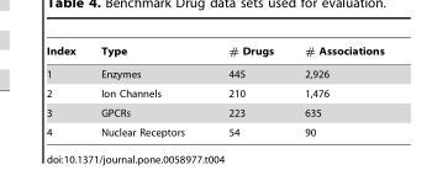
<table><thead><tr><td>Index</td><td>Type</td><td># Drugs</td><td># Associations</td></tr></thead><tbody><tr><td>1</td><td>Enzymes</td><td>445</td><td>2,926</td></tr><tr><td>2</td><td>Ion Channels</td><td>210</td><td>1,476</td></tr><tr><td>3</td><td>GPCRs</td><td>223</td><td>635</td></tr><tr><td>4</td><td>Nuclear Receptors</td><td>54</td><td>90</td></tr></tbody></table>